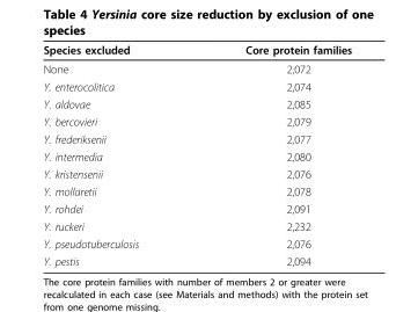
<table><thead><tr><td>Species excluded</td><td>Core protein families</td></tr></thead><tbody><tr><td>None</td><td>2,072</td></tr><tr><td>Y. enterocolitica</td><td>2,074</td></tr><tr><td>Y. aldovae</td><td>2,085</td></tr><tr><td>Y. bercovieri</td><td>2,079</td></tr><tr><td>Y. frederiksenii</td><td>2,077</td></tr><tr><td>Y. intermedia</td><td>2,080</td></tr><tr><td>Y. kristensenii</td><td>2,076</td></tr><tr><td>Y. mollaretii</td><td>2,078</td></tr><tr><td>Y. rohdei</td><td>2,091</td></tr><tr><td>Y. ruckeri</td><td>2,232</td></tr><tr><td>Y. pseudotuberculosis</td><td>2,076</td></tr><tr><td>Y. pestis</td><td>2,094</td></tr></tbody></table>